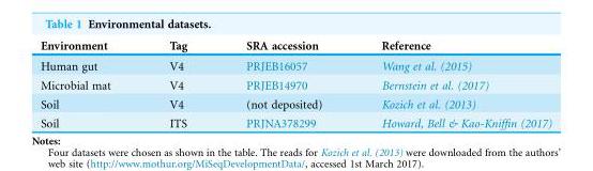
<table><thead><tr><td>Environment</td><td>Tag</td><td>SRA accession</td><td>Reference</td></tr></thead><tbody><tr><td>Human gut</td><td>V4</td><td>PRJEB16057</td><td>Wang et al. (2015)</td></tr><tr><td>Microbial mat</td><td>V4</td><td>PRJEB14970</td><td>Bernstein et al. (2017)</td></tr><tr><td>Soil</td><td>V4</td><td>(not deposited)</td><td>Kozich et al. (2013)</td></tr><tr><td>Soil</td><td>ITS</td><td>PRJNA378299</td><td>Howard, Bell &amp; Kao-Kniffin (2017)</td></tr></tbody></table>